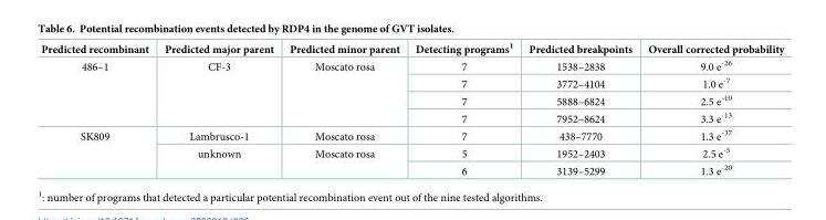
<table><thead><tr><td>Predicted recombinant</td><td>Predicted major parent</td><td>Predicted minor parent</td><td>Detecting programs<sup>1</sup></td><td>Predicted breakpoints</td><td>Overall corrected probability</td></tr></thead><tbody><tr><td rowspan="4">486–1</td><td rowspan="4">CF-3</td><td rowspan="4">Moscato rosa</td><td>7</td><td>1538–2838</td><td>9.0 e<sup>-26</sup></td></tr><tr><td>7</td><td>3772–4104</td><td>1.0 e<sup>-7</sup></td></tr><tr><td>7</td><td>5888–6824</td><td>2.5 e<sup>-10</sup></td></tr><tr><td>7</td><td>7952–8624</td><td>3.3 e<sup>-13</sup></td></tr><tr><td rowspan="3">SK809</td><td>Lambrusco-1</td><td>Moscato rosa</td><td>7</td><td>438–7770</td><td>1.3 e<sup>-37</sup></td></tr><tr><td rowspan="2">unknown</td><td rowspan="2">Moscato rosa</td><td>5</td><td>1952–2403</td><td>2.5 e<sup>-5</sup></td></tr><tr><td>6</td><td>3139–5299</td><td>1.3 e<sup>-20</sup></td></tr></tbody></table>